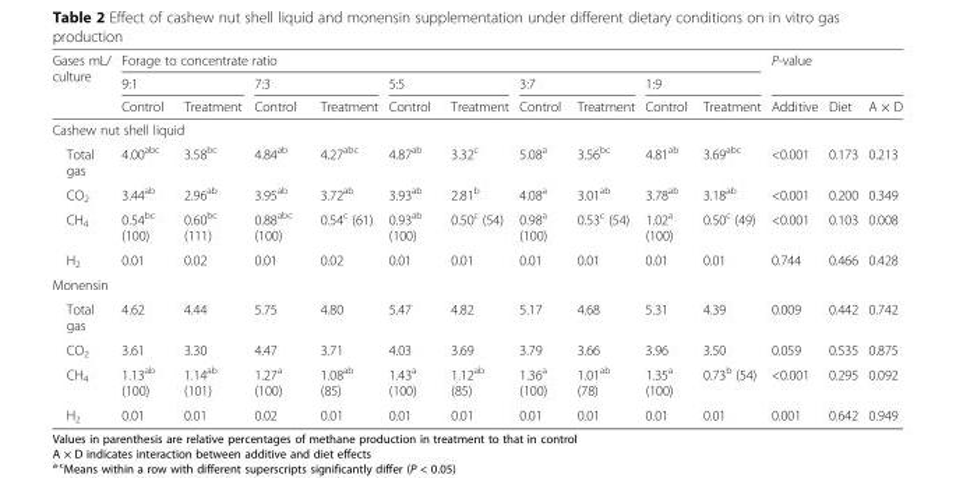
<table><thead><tr><td rowspan="3">Gases mL/ culture</td><td colspan="10">Forage to concentrate ratio</td><td rowspan="2" colspan="3">P-value</td></tr><tr><td colspan="2">9:1</td><td colspan="2">7:3</td><td colspan="2">5:5</td><td colspan="2">3:7</td><td colspan="2">1:9</td></tr><tr><td>Control</td><td>Treatment</td><td>Control</td><td>Treatment</td><td>Control</td><td>Treatment</td><td>Control</td><td>Treatment</td><td>Control</td><td>Treatment</td><td>Additive</td><td>Diet</td><td>A × D</td></tr></thead><tbody><tr><td colspan="14">Cashew nut shell liquid</td></tr><tr><td>Total gas</td><td>4.00<sup>abc</sup></td><td>3.58<sup>bc</sup></td><td>4.84<sup>ab</sup></td><td>4.27<sup>abc</sup></td><td>4.87<sup>ab</sup></td><td>3.32<sup>c</sup></td><td>5.08<sup>a</sup></td><td>3.56<sup>bc</sup></td><td>4.81<sup>ab</sup></td><td>3.69<sup>abc</sup></td><td>&lt;0.001</td><td>0.173</td><td>0.213</td></tr><tr><td>CO<sub>2</sub></td><td>3.44<sup>ab</sup></td><td>2.96<sup>ab</sup></td><td>3.95<sup>ab</sup></td><td>3.72<sup>ab</sup></td><td>3.93<sup>ab</sup></td><td>2.81<sup>b</sup></td><td>4.08<sup>a</sup></td><td>3.01<sup>ab</sup></td><td>3.78<sup>ab</sup></td><td>3.18<sup>ab</sup></td><td>&lt;0.001</td><td>0.200</td><td>0.349</td></tr><tr><td>CH<sub>4</sub></td><td>0.54<sup>bc</sup> (100)</td><td>0.60<sup>bc</sup> (111)</td><td>0.88<sup>abc</sup> (100)</td><td>0.54<sup>c</sup> (61)</td><td>0.93<sup>ab</sup> (100)</td><td>0.50<sup>c</sup> (54)</td><td>0.98<sup>a</sup> (100)</td><td>0.53<sup>c</sup> (54)</td><td>1.02<sup>a</sup> (100)</td><td>0.50<sup>c</sup> (49)</td><td>&lt;0.001</td><td>0.103</td><td>0.008</td></tr><tr><td>H<sub>2</sub></td><td>0.01</td><td>0.02</td><td>0.01</td><td>0.02</td><td>0.01</td><td>0.01</td><td>0.01</td><td>0.01</td><td>0.01</td><td>0.01</td><td>0.744</td><td>0.466</td><td>0.428</td></tr><tr><td colspan="14">Monensin</td></tr><tr><td>Total gas</td><td>4.62</td><td>4.44</td><td>5.75</td><td>4.80</td><td>5.47</td><td>4.82</td><td>5.17</td><td>4.68</td><td>5.31</td><td>4.39</td><td>0.009</td><td>0.442</td><td>0.742</td></tr><tr><td>CO<sub>2</sub></td><td>3.61</td><td>3.30</td><td>4.47</td><td>3.71</td><td>4.03</td><td>3.69</td><td>3.79</td><td>3.66</td><td>3.96</td><td>3.50</td><td>0.059</td><td>0.535</td><td>0.875</td></tr><tr><td>CH<sub>4</sub></td><td>1.13<sup>ab</sup> (100)</td><td>1.14<sup>ab</sup> (101)</td><td>1.27<sup>a</sup> (100)</td><td>1.08<sup>ab</sup> (85)</td><td>1.43<sup>a</sup> (100)</td><td>1.12<sup>ab</sup> (85)</td><td>1.36<sup>a</sup> (100)</td><td>1.01<sup>ab</sup> (78)</td><td>1.35<sup>a</sup> (100)</td><td>0.73<sup>b</sup> (54)</td><td>&lt;0.001</td><td>0.295</td><td>0.092</td></tr><tr><td>H<sub>2</sub></td><td>0.01</td><td>0.01</td><td>0.02</td><td>0.01</td><td>0.01</td><td>0.01</td><td>0.01</td><td>0.01</td><td>0.01</td><td>0.01</td><td>0.001</td><td>0.642</td><td>0.949</td></tr></tbody></table>